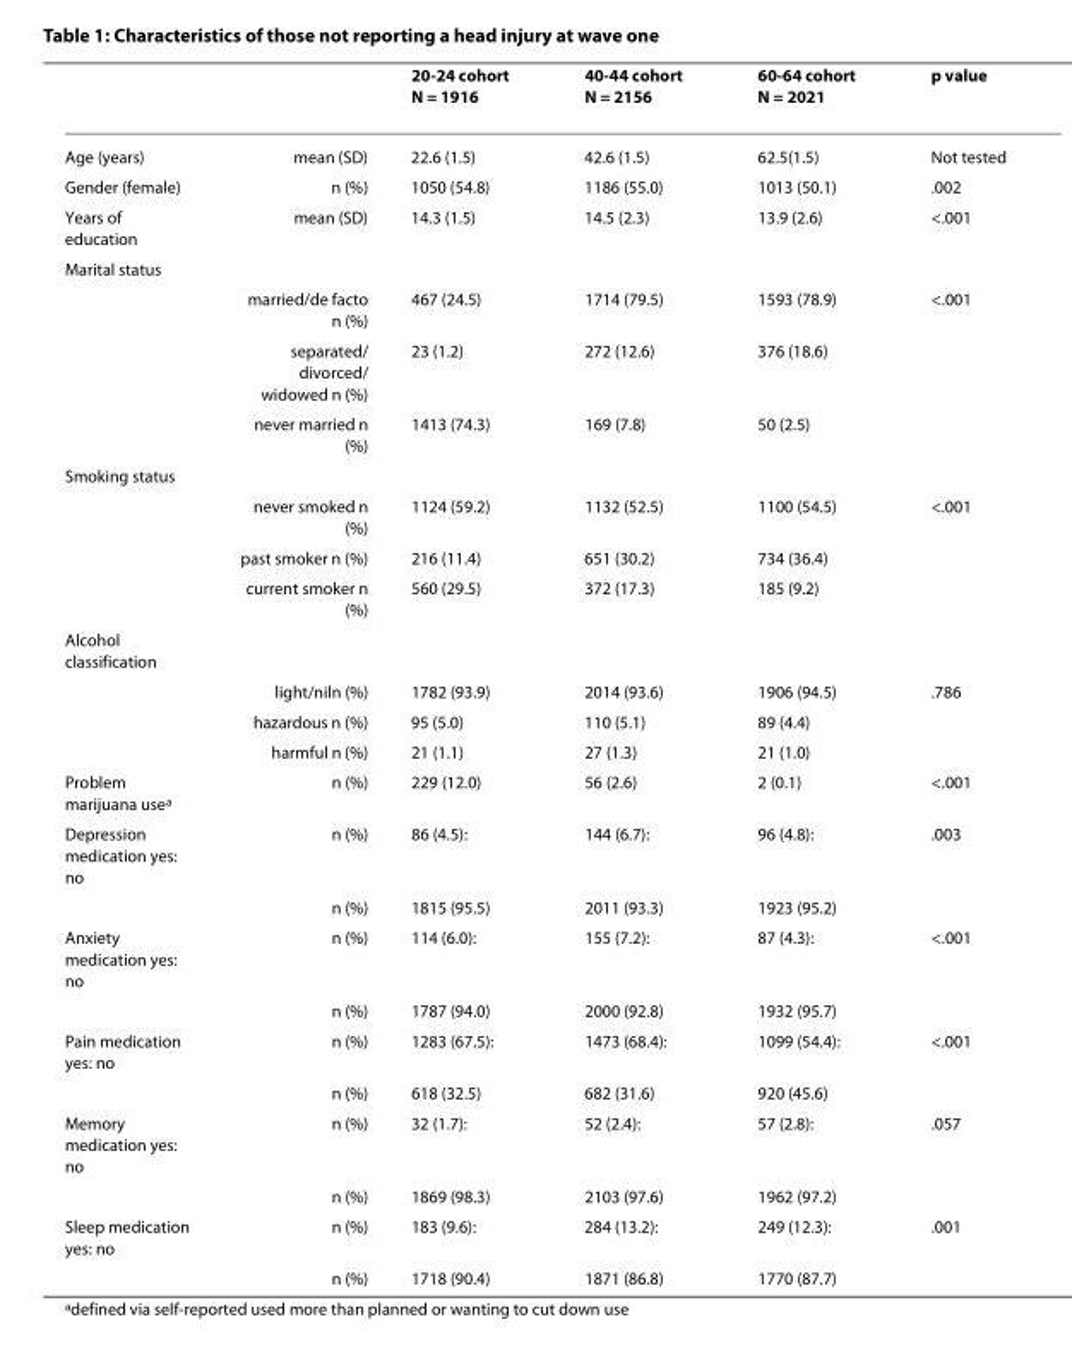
<table><thead><tr><td></td><td></td><td>20-24 cohort N = 1916</td><td>40-44 cohort N = 2156</td><td>60-64 cohort N = 2021</td><td>p value</td></tr></thead><tbody><tr><td>Age (years)</td><td>mean (SD)</td><td>22.6 (1.5)</td><td>42.6 (1.5)</td><td>62.5(1.5)</td><td>Not tested</td></tr><tr><td>Gender (female)</td><td>n (%)</td><td>1050 (54.8)</td><td>1186 (55.0)</td><td>1013 (50.1)</td><td>.002</td></tr><tr><td>Years of education</td><td>mean (SD)</td><td>14.3 (1.5)</td><td>14.5 (2.3)</td><td>13.9 (2.6)</td><td>&lt;.001</td></tr><tr><td colspan="6">Marital status</td></tr><tr><td></td><td>married/de facto n (%)</td><td>467 (24.5)</td><td>1714 (79.5)</td><td>1593 (78.9)</td><td>&lt;.001</td></tr><tr><td></td><td>separated/ divorced/ widowed n (%)</td><td>23 (1.2)</td><td>272 (12.6)</td><td>376 (18.6)</td><td></td></tr><tr><td></td><td>never married n (%)</td><td>1413 (74.3)</td><td>169 (7.8)</td><td>50 (2.5)</td><td></td></tr><tr><td colspan="6">Smoking status</td></tr><tr><td></td><td>never smoked n (%)</td><td>1124 (59.2)</td><td>1132 (52.5)</td><td>1100 (54.5)</td><td>&lt;.001</td></tr><tr><td></td><td>past smoker n (%)</td><td>216 (11.4)</td><td>651 (30.2)</td><td>734 (36.4)</td><td></td></tr><tr><td></td><td>current smoker n (%)</td><td>560 (29.5)</td><td>372 (17.3)</td><td>185 (9.2)</td><td></td></tr><tr><td colspan="6">Alcohol classification</td></tr><tr><td></td><td>light/niln (%)</td><td>1782 (93.9)</td><td>2014 (93.6)</td><td>1906 (94.5)</td><td>.786</td></tr><tr><td></td><td>hazardous n (%)</td><td>95 (5.0)</td><td>110 (5.1)</td><td>89 (4.4)</td><td></td></tr><tr><td></td><td>harmful n (%)</td><td>21 (1.1)</td><td>27 (1.3)</td><td>21 (1.0)</td><td></td></tr><tr><td>Problem marijuana use<sup>a</sup></td><td>n (%)</td><td>229 (12.0)</td><td>56 (2.6)</td><td>2 (0.1)</td><td>&lt;.001</td></tr><tr><td rowspan="2">Depression medication yes: no</td><td>n (%)</td><td>86 (4.5):</td><td>144 (6.7):</td><td>96 (4.8):</td><td>.003</td></tr><tr><td>n (%)</td><td>1815 (95.5)</td><td>2011 (93.3)</td><td>1923 (95.2)</td><td></td></tr><tr><td rowspan="2">Anxiety medication yes: no</td><td>n (%)</td><td>114 (6.0):</td><td>155 (7.2):</td><td>87 (4.3):</td><td>&lt;.001</td></tr><tr><td>n (%)</td><td>1787 (94.0)</td><td>2000 (92.8)</td><td>1932 (95.7)</td><td></td></tr><tr><td rowspan="2">Pain medication yes: no</td><td>n (%)</td><td>1283 (67.5):</td><td>1473 (68.4):</td><td>1099 (54.4):</td><td>&lt;.001</td></tr><tr><td>n (%)</td><td>618 (32.5)</td><td>682 (31.6)</td><td>920 (45.6)</td><td></td></tr><tr><td rowspan="2">Memory medication yes: no</td><td>n (%)</td><td>32 (1.7):</td><td>52 (2.4):</td><td>57 (2.8):</td><td>.057</td></tr><tr><td>n (%)</td><td>1869 (98.3)</td><td>2103 (97.6)</td><td>1962 (97.2)</td><td></td></tr><tr><td rowspan="2">Sleep medication yes: no</td><td>n (%)</td><td>183 (9.6):</td><td>284 (13.2):</td><td>249 (12.3):</td><td>.001</td></tr><tr><td>n (%)</td><td>1718 (90.4)</td><td>1871 (86.8)</td><td>1770 (87.7)</td><td></td></tr></tbody></table>